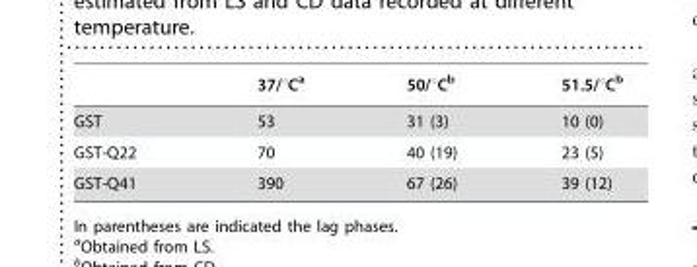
<table><thead><tr><td></td><td>37/°C<sup>a</sup></td><td>50/°C<sup>b</sup></td><td>51.5/°C<sup>b</sup></td></tr></thead><tbody><tr><td>GST</td><td>53</td><td>31 (3)</td><td>10 (0)</td></tr><tr><td>GST-Q22</td><td>70</td><td>40 (19)</td><td>23 (5)</td></tr><tr><td>GST-Q41</td><td>390</td><td>67 (26)</td><td>39 (12)</td></tr></tbody></table>